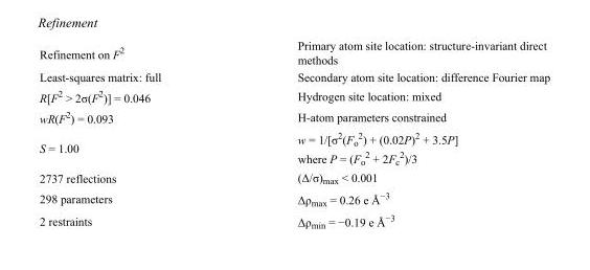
<table><tbody><tr><td>Refinement on F<sup>2</sup></td><td>Primary atom site location: structure-invariant direct methods</td></tr><tr><td>Least-squares matrix: full</td><td>Secondary atom site location: difference Fourier map</td></tr><tr><td>R[F<sup>2</sup> &gt; 2σ(F<sup>2</sup>)] = 0.046</td><td>Hydrogen site location: mixed</td></tr><tr><td>wR(F<sup>2</sup>) = 0.093</td><td>H-atom parameters constrained</td></tr><tr><td>S = 1.00</td><td>w = 1/[σ<sup>2</sup>(F<sub>o</sub> <sup>2</sup>) + (0.02P)<sup>2</sup> + 3.5P] where P = (F<sub>o</sub> <sup>2</sup> + 2F<sub>c</sub> <sup>2</sup>)/3</td></tr><tr><td>2737 reflections</td><td>(Δ/σ)<sub>max</sub> &lt; 0.001</td></tr><tr><td>298 parameters</td><td>Δρ<sub>max</sub> = 0.26 e Å<sup>−3</sup></td></tr><tr><td>2 restraints</td><td>Δρ<sub>min</sub> = −0.19 e Å<sup>−3</sup></td></tr></tbody></table>